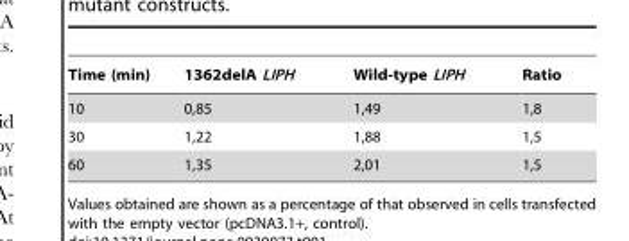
<table><thead><tr><td>Time (min)</td><td>1362delA LIPH</td><td>Wild-type LIPH</td><td>Ratio</td></tr></thead><tbody><tr><td>10</td><td>0,85</td><td>1,49</td><td>1,8</td></tr><tr><td>30</td><td>1,22</td><td>1,88</td><td>1,5</td></tr><tr><td>60</td><td>1,35</td><td>2,01</td><td>1,5</td></tr></tbody></table>